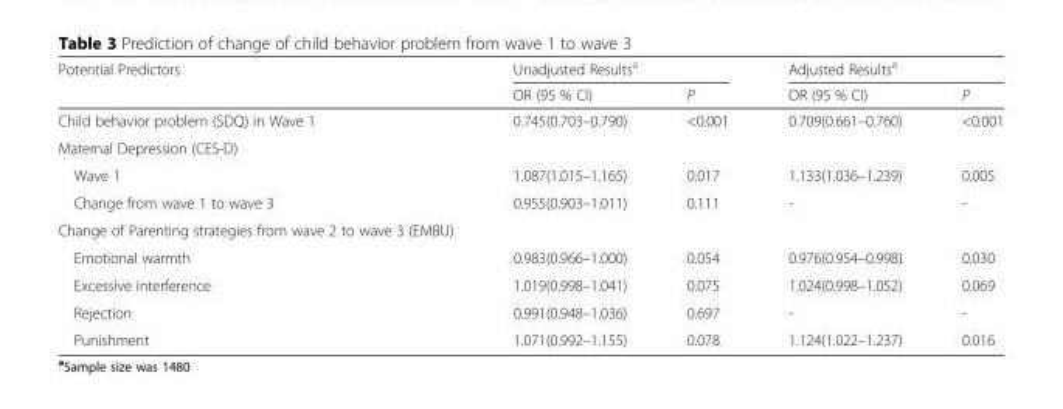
<table><thead><tr><td rowspan="2">Potential Predictors</td><td colspan="2">Unadjusted Results<sup>a</sup></td><td colspan="2">Adjusted Results<sup>a</sup></td></tr><tr><td>OR (95 % CI)</td><td>P</td><td>OR (95 % CI)</td><td>P</td></tr></thead><tbody><tr><td>Child behavior problem (SDQ) in Wave 1</td><td>0.745(0.703–0.790)</td><td>&lt;0.001</td><td>0.709(0.661–0.760)</td><td>&lt;0.001</td></tr><tr><td colspan="5">Maternal Depression (CES-D)</td></tr><tr><td>Wave 1</td><td>1.087(1.015–1.165)</td><td>0.017</td><td>1.133(1.036–1.239)</td><td>0.005</td></tr><tr><td>Change from wave 1 to wave 3</td><td>0.955(0.903–1.011)</td><td>0.111</td><td>-</td><td>-</td></tr><tr><td colspan="5">Change of Parenting strategies from wave 2 to wave 3 (EMBU)</td></tr><tr><td>Emotional warmth</td><td>0.983(0.966–1.000)</td><td>0.054</td><td>0.976(0.954–0.998)</td><td>0.030</td></tr><tr><td>Excessive interference</td><td>1.019(0.998–1.041)</td><td>0.075</td><td>1.024(0.998–1.052)</td><td>0.069</td></tr><tr><td>Rejection</td><td>0.991(0.948–1.036)</td><td>0.697</td><td>-</td><td>-</td></tr><tr><td>Punishment</td><td>1.071(0.992–1.155)</td><td>0.078</td><td>1.124(1.022–1.237)</td><td>0.016</td></tr></tbody></table>